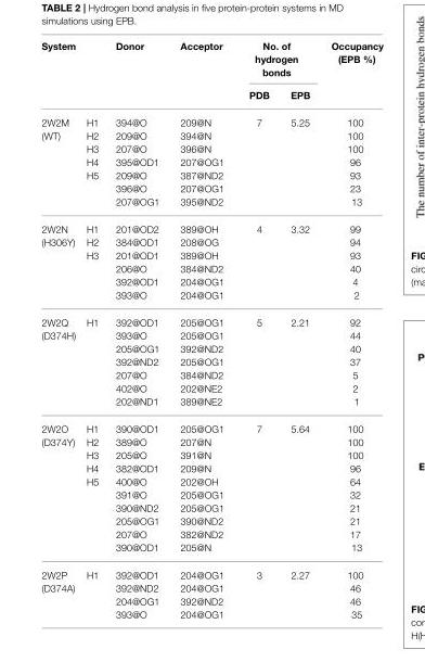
<table><thead><tr><td rowspan="2">System</td><td rowspan="2"></td><td rowspan="2">Donor</td><td rowspan="2">Acceptor</td><td colspan="2">No. of hydrogen bonds</td><td rowspan="2">Occupancy (EPB %)</td></tr><tr><td>PDB</td><td>EPB</td></tr></thead><tbody><tr><td>2W2M (WT)</td><td>H1 H2 H3 H4 H5</td><td>394@O 209@O 207@O 395@OD1 209@O 396@O 207@OG1</td><td>209@N 394@N 396@N 207@OG1 387@ND2 207@OG1 395@ND2</td><td>7</td><td>5.25</td><td>100 100 100 96 93 23 13</td></tr><tr><td>2W2N (H306Y)</td><td>H1 H2 H3</td><td>201@OD2 384@OD1 201@OD1 206@O 392@OD1 393@O</td><td>389@OH 208@OG 389@OH 384@ND2 204@OG1 204@OG1</td><td>4</td><td>3.32</td><td>99 94 93 40 4 2</td></tr><tr><td>2W2Q (D374H)</td><td>H1</td><td>392@OD1 393@O 205@OG1 392@ND2 207@O 402@O 202@ND1</td><td>205@OG1 205@OG1 392@ND2 205@OG1 384@ND2 202@NE2 389@NE2</td><td>5</td><td>2.21</td><td>92 44 40 37 5 2 1</td></tr><tr><td>2W2O (D374Y)</td><td>H1 H2 H3 H4 H5</td><td>390@OD1 389@O 205@O 382@OD1 400@O 391@O 390@ND2 205@OG1 207@O 390@OD1</td><td>205@OG1 207@N 391@N 209@N 202@OH 205@OG1 205@OG1 390@ND2 382@ND2 205@N</td><td>7</td><td>5.64</td><td>100 100 100 96 64 32 21 21 17 13</td></tr><tr><td>2W2P (D374A)</td><td>H1</td><td>392@OD1 392@ND2 204@OG1 393@O</td><td>204@OG1 204@OG1 392@ND2 204@OG1</td><td>3</td><td>2.27</td><td>100 46 46 35</td></tr></tbody></table>